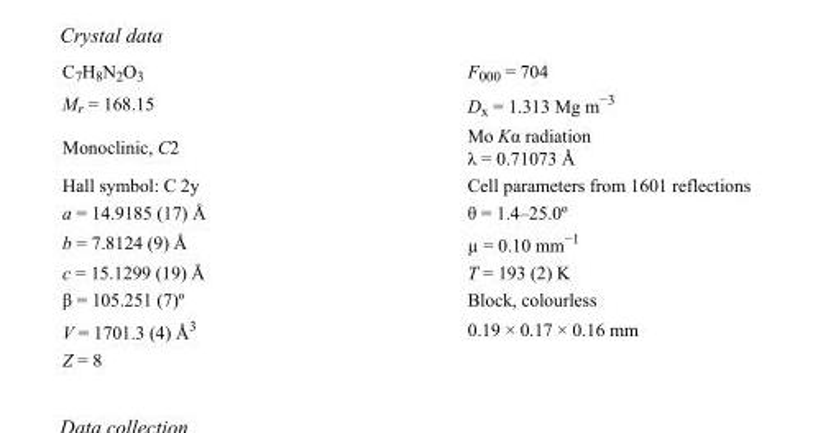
<table><tbody><tr><td>C<sub>7</sub>H<sub>8</sub>N<sub>2</sub>O<sub>3</sub></td><td>F000 = 704</td></tr><tr><td>M<sub>r</sub> = 168.15</td><td>D<sub>x</sub> = 1.313 Mg m<sup>−3</sup></td></tr><tr><td>Monoclinic, C2</td><td>Mo Kα radiation λ = 0.71073 Å</td></tr><tr><td>Hall symbol: C 2y</td><td>Cell parameters from 1601 reflections</td></tr><tr><td>a = 14.9185 (17) Å</td><td>θ = 1.4–25.0º</td></tr><tr><td>b = 7.8124 (9) Å</td><td>µ = 0.10 mm<sup>−1</sup></td></tr><tr><td>c = 15.1299 (19) Å</td><td>T = 193 (2) K</td></tr><tr><td>β = 105.251 (7)º</td><td>Block, colourless</td></tr><tr><td>V = 1701.3 (4) Å<sup>3</sup></td><td>0.19 × 0.17 × 0.16 mm</td></tr><tr><td>Z = 8</td><td></td></tr></tbody></table>